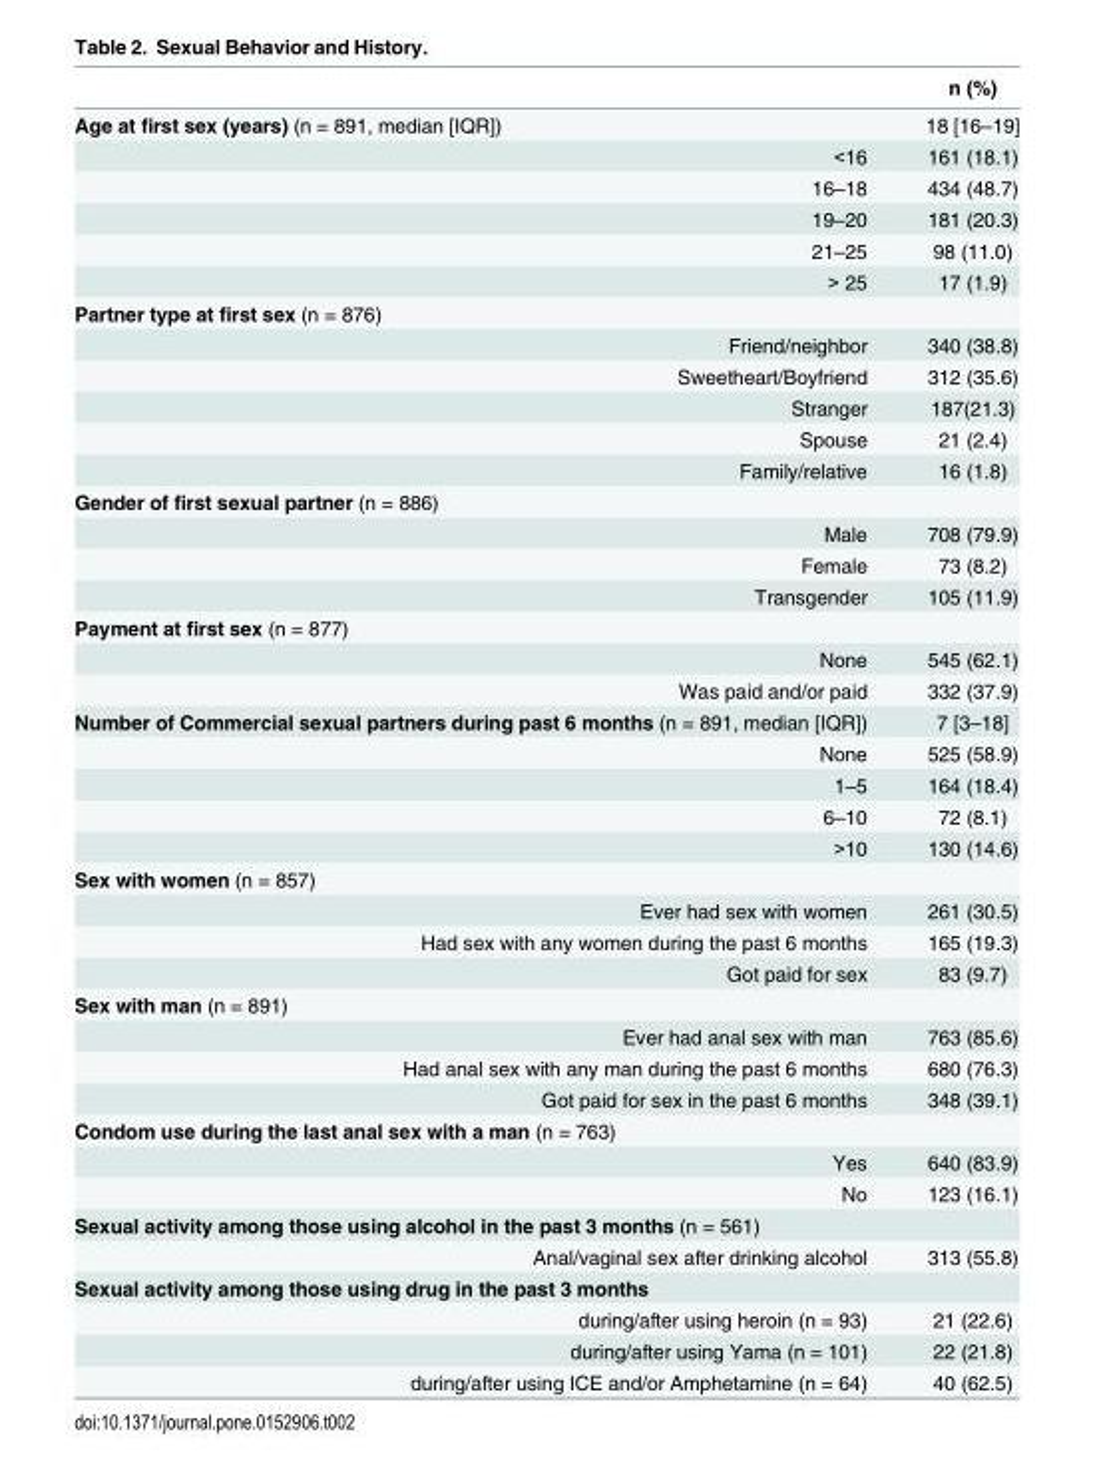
<table><thead><tr><td></td><td>n (%)</td></tr></thead><tbody><tr><td>Age at first sex (years) (n = 891, median [IQR])</td><td>18 [16–19]</td></tr><tr><td>&lt;16</td><td>161 (18.1)</td></tr><tr><td>16–18</td><td>434 (48.7)</td></tr><tr><td>19–20</td><td>181 (20.3)</td></tr><tr><td>21–25</td><td>98 (11.0)</td></tr><tr><td>&gt; 25</td><td>17 (1.9)</td></tr><tr><td colspan="2">Partner type at first sex (n = 876)</td></tr><tr><td>Friend/neighbor</td><td>340 (38.8)</td></tr><tr><td>Sweetheart/Boyfriend</td><td>312 (35.6)</td></tr><tr><td>Stranger</td><td>187(21.3)</td></tr><tr><td>Spouse</td><td>21 (2.4)</td></tr><tr><td>Family/relative</td><td>16 (1.8)</td></tr><tr><td colspan="2">Gender of first sexual partner (n = 886)</td></tr><tr><td>Male</td><td>708 (79.9)</td></tr><tr><td>Female</td><td>73 (8.2)</td></tr><tr><td>Transgender</td><td>105 (11.9)</td></tr><tr><td colspan="2">Payment at first sex (n = 877)</td></tr><tr><td>None</td><td>545 (62.1)</td></tr><tr><td>Was paid and/or paid</td><td>332 (37.9)</td></tr><tr><td>Number of Commercial sexual partners during past 6 months (n = 891, median [IQR])</td><td>7 [3–18]</td></tr><tr><td>None</td><td>525 (58.9)</td></tr><tr><td>1–5</td><td>164 (18.4)</td></tr><tr><td>6–10</td><td>72 (8.1)</td></tr><tr><td>&gt;10</td><td>130 (14.6)</td></tr><tr><td colspan="2">Sex with women (n = 857)</td></tr><tr><td>Ever had sex with women</td><td>261 (30.5)</td></tr><tr><td>Had sex with any women during the past 6 months</td><td>165 (19.3)</td></tr><tr><td>Got paid for sex</td><td>83 (9.7)</td></tr><tr><td colspan="2">Sex with man (n = 891)</td></tr><tr><td>Ever had anal sex with man</td><td>763 (85.6)</td></tr><tr><td>Had anal sex with any man during the past 6 months</td><td>680 (76.3)</td></tr><tr><td>Got paid for sex in the past 6 months</td><td>348 (39.1)</td></tr><tr><td colspan="2">Condom use during the last anal sex with a man (n = 763)</td></tr><tr><td>Yes</td><td>640 (83.9)</td></tr><tr><td>No</td><td>123 (16.1)</td></tr><tr><td colspan="2">Sexual activity among those using alcohol in the past 3 months (n = 561)</td></tr><tr><td>Anal/vaginal sex after drinking alcohol</td><td>313 (55.8)</td></tr><tr><td colspan="2">Sexual activity among those using drug in the past 3 months</td></tr><tr><td>during/after using heroin (n = 93)</td><td>21 (22.6)</td></tr><tr><td>during/after using Yama (n = 101)</td><td>22 (21.8)</td></tr><tr><td>during/after using ICE and/or Amphetamine (n = 64)</td><td>40 (62.5)</td></tr></tbody></table>